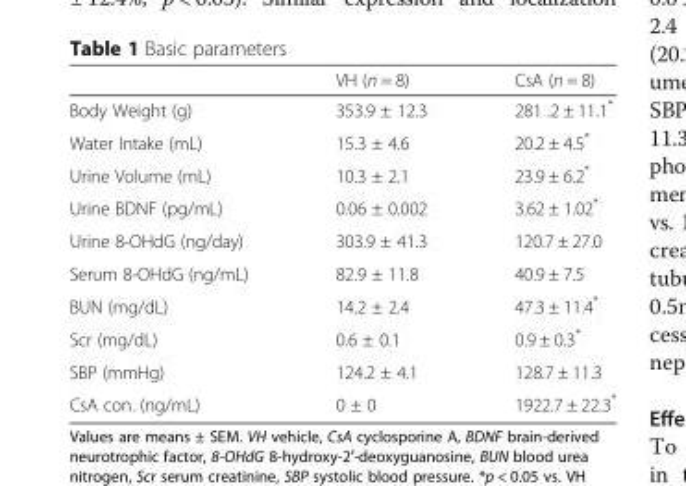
<table><thead><tr><td></td><td>VH (n = 8)</td><td>CsA (n = 8)</td></tr></thead><tbody><tr><td>Body Weight (g)</td><td>353.9 ± 12.3</td><td>281 .2 ± 11.1*</td></tr><tr><td>Water Intake (mL)</td><td>15.3 ± 4.6</td><td>20.2 ± 4.5*</td></tr><tr><td>Urine Volume (mL)</td><td>10.3 ± 2.1</td><td>23.9 ± 6.2*</td></tr><tr><td>Urine BDNF (pg/mL)</td><td>0.06 ± 0.002</td><td>3.62 ± 1.02*</td></tr><tr><td>Urine 8-OHdG (ng/day)</td><td>303.9 ± 41.3</td><td>120.7 ± 27.0</td></tr><tr><td>Serum 8-OHdG (ng/mL)</td><td>82.9 ± 11.8</td><td>40.9 ± 7.5</td></tr><tr><td>BUN (mg/dL)</td><td>14.2 ± 2.4</td><td>47.3 ± 11.4*</td></tr><tr><td>Scr (mg/dL)</td><td>0.6 ± 0.1</td><td>0.9 ± 0.3*</td></tr><tr><td>SBP (mmHg)</td><td>124.2 ± 4.1</td><td>128.7 ± 11.3</td></tr><tr><td>CsA con. (ng/mL)</td><td>0 ± 0</td><td>1922.7 ± 22.3*</td></tr></tbody></table>